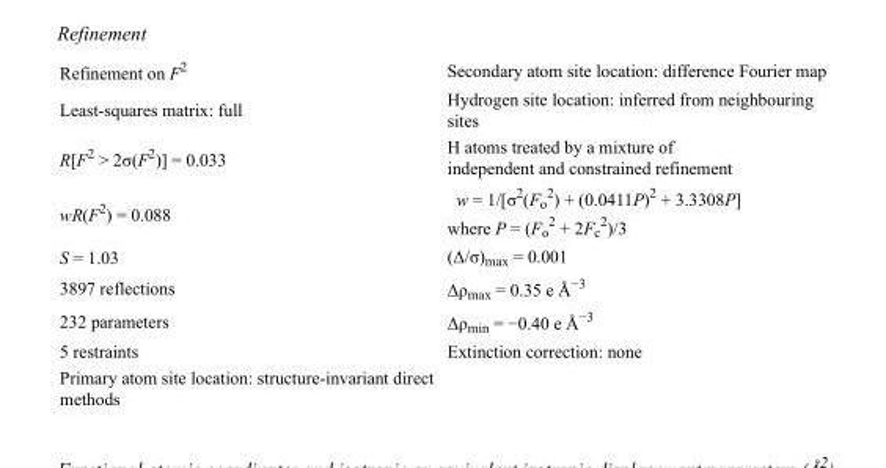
<table><tbody><tr><td>Refinement on F<sup>2</sup></td><td>Secondary atom site location: difference Fourier map</td></tr><tr><td>Least-squares matrix: full</td><td>Hydrogen site location: inferred from neighbouring sites</td></tr><tr><td>R[F<sup>2</sup> &gt; 2σ(F<sup>2</sup>)] = 0.033</td><td>H atoms treated by a mixture of independent and constrained refinement</td></tr><tr><td>wR(F<sup>2</sup>) = 0.088</td><td>w = 1/[σ<sup>2</sup>(F<sub>o</sub> <sup>2</sup>) + (0.0411P)<sup>2</sup> + 3.3308P] where P = (F<sub>o</sub> <sup>2</sup> + 2F<sub>c</sub> <sup>2</sup>)/3</td></tr><tr><td>S = 1.03</td><td>(Δ/σ)<sub>max</sub> = 0.001</td></tr><tr><td>3897 reflections</td><td>Δρ<sub>max</sub> = 0.35 e Å<sup>−3</sup></td></tr><tr><td>232 parameters</td><td>Δρ<sub>min</sub> = −0.40 e Å<sup>−3</sup></td></tr><tr><td>5 restraints</td><td>Extinction correction: none</td></tr><tr><td>Primary atom site location: structure-invariant direct methods</td><td></td></tr></tbody></table>